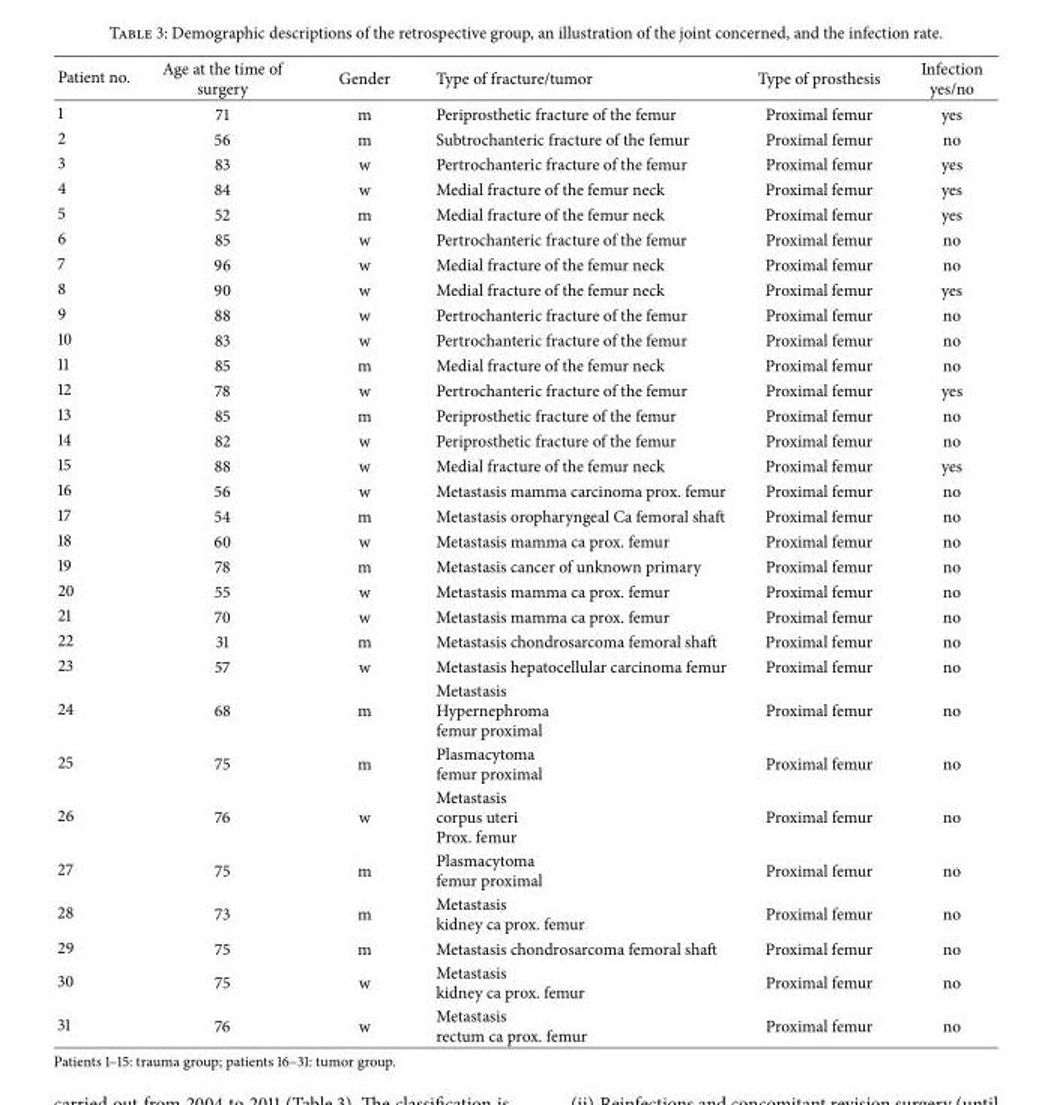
<table><thead><tr><td>Patient no.</td><td>Age at the time of surgery</td><td>Gender</td><td>Type of fracture/tumor</td><td>Type of prosthesis</td><td>Infection yes/no</td></tr></thead><tbody><tr><td>1</td><td>71</td><td>m</td><td>Periprosthetic fracture of the femur</td><td>Proximal femur</td><td>yes</td></tr><tr><td>2</td><td>56</td><td>m</td><td>Subtrochanteric fracture of the femur</td><td>Proximal femur</td><td>no</td></tr><tr><td>3</td><td>83</td><td>w</td><td>Pertrochanteric fracture of the femur</td><td>Proximal femur</td><td>yes</td></tr><tr><td>4</td><td>84</td><td>w</td><td>Medial fracture of the femur neck</td><td>Proximal femur</td><td>yes</td></tr><tr><td>5</td><td>52</td><td>m</td><td>Medial fracture of the femur neck</td><td>Proximal femur</td><td>yes</td></tr><tr><td>6</td><td>85</td><td>w</td><td>Pertrochanteric fracture of the femur</td><td>Proximal femur</td><td>no</td></tr><tr><td>7</td><td>96</td><td>w</td><td>Medial fracture of the femur neck</td><td>Proximal femur</td><td>no</td></tr><tr><td>8</td><td>90</td><td>w</td><td>Medial fracture of the femur neck</td><td>Proximal femur</td><td>yes</td></tr><tr><td>9</td><td>88</td><td>w</td><td>Pertrochanteric fracture of the femur</td><td>Proximal femur</td><td>no</td></tr><tr><td>10</td><td>83</td><td>w</td><td>Pertrochanteric fracture of the femur</td><td>Proximal femur</td><td>no</td></tr><tr><td>11</td><td>85</td><td>m</td><td>Medial fracture of the femur neck</td><td>Proximal femur</td><td>no</td></tr><tr><td>12</td><td>78</td><td>w</td><td>Pertrochanteric fracture of the femur</td><td>Proximal femur</td><td>yes</td></tr><tr><td>13</td><td>85</td><td>m</td><td>Periprosthetic fracture of the femur</td><td>Proximal femur</td><td>no</td></tr><tr><td>14</td><td>82</td><td>w</td><td>Periprosthetic fracture of the femur</td><td>Proximal femur</td><td>no</td></tr><tr><td>15</td><td>88</td><td>w</td><td>Medial fracture of the femur neck</td><td>Proximal femur</td><td>yes</td></tr><tr><td>16</td><td>56</td><td>w</td><td>Metastasis mamma carcinoma prox. femur</td><td>Proximal femur</td><td>no</td></tr><tr><td>17</td><td>54</td><td>m</td><td>Metastasis oropharyngeal Ca femoral shaft</td><td>Proximal femur</td><td>no</td></tr><tr><td>18</td><td>60</td><td>w</td><td>Metastasis mamma ca prox. femur</td><td>Proximal femur</td><td>no</td></tr><tr><td>19</td><td>78</td><td>m</td><td>Metastasis cancer of unknown primary</td><td>Proximal femur</td><td>no</td></tr><tr><td>20</td><td>55</td><td>w</td><td>Metastasis mamma ca prox. femur</td><td>Proximal femur</td><td>no</td></tr><tr><td>21</td><td>70</td><td>w</td><td>Metastasis mamma ca prox. femur</td><td>Proximal femur</td><td>no</td></tr><tr><td>22</td><td>31</td><td>m</td><td>Metastasis chondrosarcoma femoral shaft</td><td>Proximal femur</td><td>no</td></tr><tr><td>23</td><td>57</td><td>w</td><td>Metastasis hepatocellular carcinoma femur</td><td>Proximal femur</td><td>no</td></tr><tr><td>24</td><td>68</td><td>m</td><td>Metastasis Hypernephroma femur proximal</td><td>Proximal femur</td><td>no</td></tr><tr><td>25</td><td>75</td><td>m</td><td>Plasmacytoma femur proximal</td><td>Proximal femur</td><td>no</td></tr><tr><td>26</td><td>76</td><td>w</td><td>Metastasis corpus uteri Prox. femur</td><td>Proximal femur</td><td>no</td></tr><tr><td>27</td><td>75</td><td>m</td><td>Plasmacytoma femur proximal</td><td>Proximal femur</td><td>no</td></tr><tr><td>28</td><td>73</td><td>m</td><td>Metastasis kidney ca prox. femur</td><td>Proximal femur</td><td>no</td></tr><tr><td>29</td><td>75</td><td>m</td><td>Metastasis chondrosarcoma femoral shaft</td><td>Proximal femur</td><td>no</td></tr><tr><td>30</td><td>75</td><td>w</td><td>Metastasis kidney ca prox. femur</td><td>Proximal femur</td><td>no</td></tr><tr><td>31</td><td>76</td><td>w</td><td>Metastasis rectum ca prox. femur</td><td>Proximal femur</td><td>no</td></tr></tbody></table>